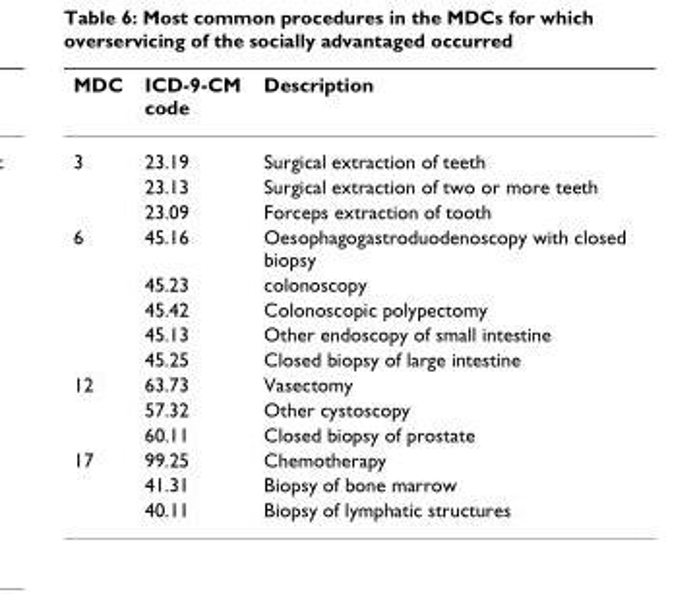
<table><thead><tr><td>MDC</td><td>ICD-9-CM code</td><td>Description</td></tr></thead><tbody><tr><td rowspan="3">3</td><td>23.19</td><td>Surgical extraction of teeth</td></tr><tr><td>23.13</td><td>Surgical extraction of two or more teeth</td></tr><tr><td>23.09</td><td>Forceps extraction of tooth</td></tr><tr><td rowspan="5">6</td><td>45.16</td><td>Oesophagogastroduodenoscopy with closed biopsy</td></tr><tr><td>45.23</td><td>colonoscopy</td></tr><tr><td>45.42</td><td>Colonoscopic polypectomy</td></tr><tr><td>45.13</td><td>Other endoscopy of small intestine</td></tr><tr><td>45.25</td><td>Closed biopsy of large intestine</td></tr><tr><td rowspan="3">12</td><td>63.73</td><td>Vasectomy</td></tr><tr><td>57.32</td><td>Other cystoscopy</td></tr><tr><td>60.11</td><td>Closed biopsy of prostate</td></tr><tr><td rowspan="3">17</td><td>99.25</td><td>Chemotherapy</td></tr><tr><td>41.31</td><td>Biopsy of bone marrow</td></tr><tr><td>40.11</td><td>Biopsy of lymphatic structures</td></tr></tbody></table>